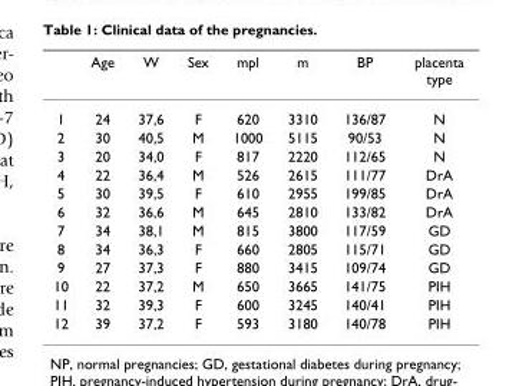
<table><thead><tr><td></td><td>Age</td><td>W</td><td>Sex</td><td>mpl</td><td>m</td><td>BP</td><td>placenta type</td></tr></thead><tbody><tr><td>1</td><td>24</td><td>37,6</td><td>F</td><td>620</td><td>3310</td><td>136/87</td><td>N</td></tr><tr><td>2</td><td>30</td><td>40,5</td><td>M</td><td>1000</td><td>5115</td><td>90/53</td><td>N</td></tr><tr><td>3</td><td>20</td><td>34,0</td><td>F</td><td>817</td><td>2220</td><td>112/65</td><td>N</td></tr><tr><td>4</td><td>22</td><td>36,4</td><td>M</td><td>526</td><td>2615</td><td>111/77</td><td>DrA</td></tr><tr><td>5</td><td>30</td><td>39,5</td><td>F</td><td>610</td><td>2955</td><td>199/85</td><td>DrA</td></tr><tr><td>6</td><td>32</td><td>36,6</td><td>M</td><td>645</td><td>2810</td><td>133/82</td><td>DrA</td></tr><tr><td>7</td><td>34</td><td>38,1</td><td>M</td><td>815</td><td>3800</td><td>117/59</td><td>GD</td></tr><tr><td>8</td><td>34</td><td>36,3</td><td>F</td><td>660</td><td>2805</td><td>115/71</td><td>GD</td></tr><tr><td>9</td><td>27</td><td>37,3</td><td>F</td><td>880</td><td>3415</td><td>109/74</td><td>GD</td></tr><tr><td>10</td><td>22</td><td>37,2</td><td>M</td><td>650</td><td>3665</td><td>141/75</td><td>PIH</td></tr><tr><td>11</td><td>32</td><td>39,3</td><td>F</td><td>600</td><td>3245</td><td>140/41</td><td>PIH</td></tr><tr><td>12</td><td>39</td><td>37,2</td><td>F</td><td>593</td><td>3180</td><td>140/78</td><td>PIH</td></tr></tbody></table>